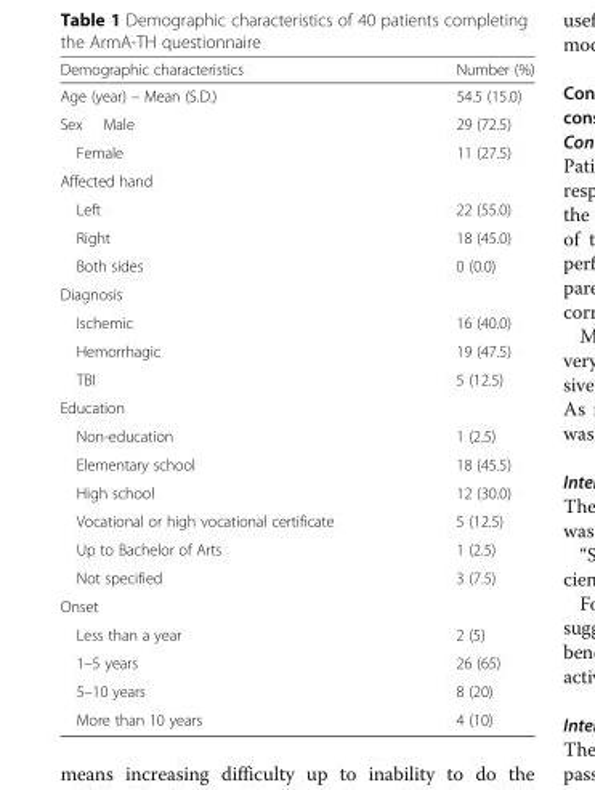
<table><thead><tr><td>Demographic characteristics</td><td>Number (%)</td></tr></thead><tbody><tr><td>Age (year) – Mean (S.D.)</td><td>54.5 (15.0)</td></tr><tr><td>Sex Male</td><td>29 (72.5)</td></tr><tr><td>Female</td><td>11 (27.5)</td></tr><tr><td colspan="2">Affected hand</td></tr><tr><td>Left</td><td>22 (55.0)</td></tr><tr><td>Right</td><td>18 (45.0)</td></tr><tr><td>Both sides</td><td>0 (0.0)</td></tr><tr><td colspan="2">Diagnosis</td></tr><tr><td>Ischemic</td><td>16 (40.0)</td></tr><tr><td>Hemorrhagic</td><td>19 (47.5)</td></tr><tr><td>TBI</td><td>5 (12.5)</td></tr><tr><td colspan="2">Education</td></tr><tr><td>Non-education</td><td>1 (2.5)</td></tr><tr><td>Elementary school</td><td>18 (45.5)</td></tr><tr><td>High school</td><td>12 (30.0)</td></tr><tr><td>Vocational or high vocational certificate</td><td>5 (12.5)</td></tr><tr><td>Up to Bachelor of Arts</td><td>1 (2.5)</td></tr><tr><td>Not specified</td><td>3 (7.5)</td></tr><tr><td colspan="2">Onset</td></tr><tr><td>Less than a year</td><td>2 (5)</td></tr><tr><td>1–5 years</td><td>26 (65)</td></tr><tr><td>5–10 years</td><td>8 (20)</td></tr><tr><td>More than 10 years</td><td>4 (10)</td></tr></tbody></table>